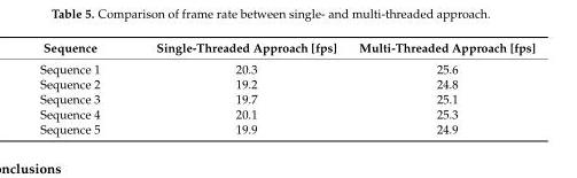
<table><thead><tr><td>Sequence</td><td>Single-Threaded Approach [fps]</td><td>Multi-Threaded Approach [fps]</td></tr></thead><tbody><tr><td>Sequence 1</td><td>20.3</td><td>25.6</td></tr><tr><td>Sequence 2</td><td>19.2</td><td>24.8</td></tr><tr><td>Sequence 3</td><td>19.7</td><td>25.1</td></tr><tr><td>Sequence 4</td><td>20.1</td><td>25.3</td></tr><tr><td>Sequence 5</td><td>19.9</td><td>24.9</td></tr></tbody></table>